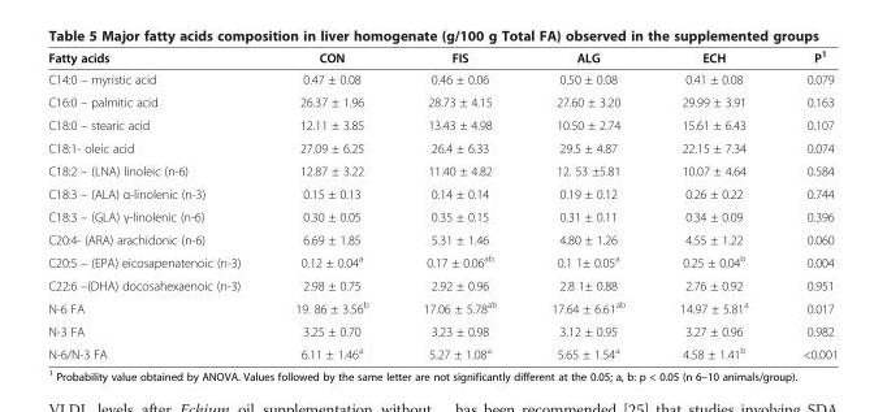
<table><thead><tr><td>Fatty acids</td><td>CON</td><td>FIS</td><td>ALG</td><td>ECH</td><td>P<sup>1</sup></td></tr></thead><tbody><tr><td>C14:0 – myristic acid</td><td>0.47 ± 0.08</td><td>0.46 ± 0.06</td><td>0.50 ± 0.08</td><td>0.41 ± 0.08</td><td>0.079</td></tr><tr><td>C16:0 – palmitic acid</td><td>26.37 ± 1.96</td><td>28.73 ± 4.15</td><td>27.60 ± 3.20</td><td>29.99 ± 3.91</td><td>0.163</td></tr><tr><td>C18:0 – stearic acid</td><td>12.11 ± 3.85</td><td>13.43 ± 4.98</td><td>10.50 ± 2.74</td><td>15.61 ± 6.43</td><td>0.107</td></tr><tr><td>C18:1- oleic acid</td><td>27.09 ± 6.25</td><td>26.4 ± 6.33</td><td>29.5 ± 4.87</td><td>22.15 ± 7.34</td><td>0.074</td></tr><tr><td>C18:2 – (LNA) linoleic (n-6)</td><td>12.87 ± 3.22</td><td>11.40 ± 4.82</td><td>12. 53 ±5.81</td><td>10.07 ± 4.64</td><td>0.584</td></tr><tr><td>C18:3 – (ALA) α-linolenic (n-3)</td><td>0.15 ± 0.13</td><td>0.14 ± 0.14</td><td>0.19 ± 0.12</td><td>0.26 ± 0.22</td><td>0.744</td></tr><tr><td>C18:3 – (GLA) γ-linolenic (n-6)</td><td>0.30 ± 0.05</td><td>0.35 ± 0.15</td><td>0.31 ± 0.11</td><td>0.34 ± 0.09</td><td>0.396</td></tr><tr><td>C20:4- (ARA) arachidonic (n-6)</td><td>6.69 ± 1.85</td><td>5.31 ± 1.46</td><td>4.80 ± 1.26</td><td>4.55 ± 1.22</td><td>0.060</td></tr><tr><td>C20:5 – (EPA) eicosapenatenoic (n-3)</td><td>0.12 ± 0.04<sup>a</sup></td><td>0.17 ± 0.06<sup>ab</sup></td><td>0.1 1± 0.05<sup>a</sup></td><td>0.25 ± 0.04<sup>b</sup></td><td>0.004</td></tr><tr><td>C22:6 –(DHA) docosahexaenoic (n-3)</td><td>2.98 ± 0.75</td><td>2.92 ± 0.96</td><td>2.8 1± 0.88</td><td>2.76 ± 0.92</td><td>0.951</td></tr><tr><td>N-6 FA</td><td>19. 86 ± 3.56<sup>b</sup></td><td>17.06 ± 5.78<sup>ab</sup></td><td>17.64 ± 6.61<sup>ab</sup></td><td>14.97 ± 5.81<sup>a</sup></td><td>0.017</td></tr><tr><td>N-3 FA</td><td>3.25 ± 0.70</td><td>3.23 ± 0.98</td><td>3.12 ± 0.95</td><td>3.27 ± 0.96</td><td>0.982</td></tr><tr><td>N-6/N-3 FA</td><td>6.11 ± 1.46<sup>a</sup></td><td>5.27 ± 1.08<sup>a</sup></td><td>5.65 ± 1.54<sup>a</sup></td><td>4.58 ± 1.41<sup>b</sup></td><td>&lt;0.001</td></tr></tbody></table>